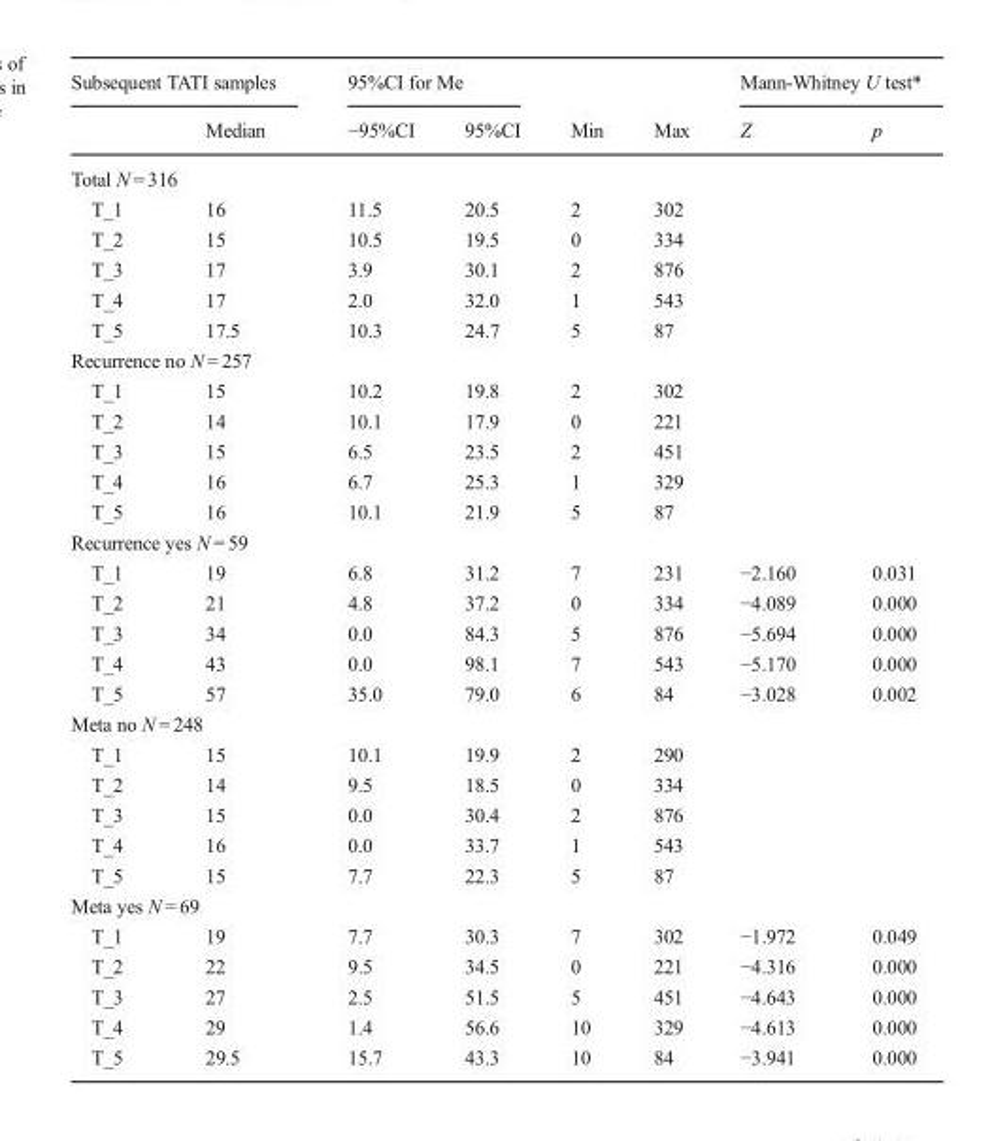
<table><thead><tr><td colspan="2">Subsequent TATI samples</td><td colspan="2">95%CI for Me</td><td rowspan="2">Min</td><td rowspan="2">Max</td><td colspan="2">Mann-Whitney U test*</td></tr><tr><td></td><td>Median</td><td>−95%CI</td><td>95%CI</td><td>Z</td><td>p</td></tr></thead><tbody><tr><td colspan="8">Total N = 316</td></tr><tr><td>T_1</td><td>16</td><td>11.5</td><td>20.5</td><td>2</td><td>302</td><td></td><td></td></tr><tr><td>T_2</td><td>15</td><td>10.5</td><td>19.5</td><td>0</td><td>334</td><td></td><td></td></tr><tr><td>T_3</td><td>17</td><td>3.9</td><td>30.1</td><td>2</td><td>876</td><td></td><td></td></tr><tr><td>T_4</td><td>17</td><td>2.0</td><td>32.0</td><td>1</td><td>543</td><td></td><td></td></tr><tr><td>T_5</td><td>17.5</td><td>10.3</td><td>24.7</td><td>5</td><td>87</td><td></td><td></td></tr><tr><td colspan="8">Recurrence no N = 257</td></tr><tr><td>T_1</td><td>15</td><td>10.2</td><td>19.8</td><td>2</td><td>302</td><td></td><td></td></tr><tr><td>T_2</td><td>14</td><td>10.1</td><td>17.9</td><td>0</td><td>221</td><td></td><td></td></tr><tr><td>T_3</td><td>15</td><td>6.5</td><td>23.5</td><td>2</td><td>451</td><td></td><td></td></tr><tr><td>T_4</td><td>16</td><td>6.7</td><td>25.3</td><td>1</td><td>329</td><td></td><td></td></tr><tr><td>T_5</td><td>16</td><td>10.1</td><td>21.9</td><td>5</td><td>87</td><td></td><td></td></tr><tr><td colspan="8">Recurrence yes N = 59</td></tr><tr><td>T_1</td><td>19</td><td>6.8</td><td>31.2</td><td>7</td><td>231</td><td>−2.160</td><td>0.031</td></tr><tr><td>T_2</td><td>21</td><td>4.8</td><td>37.2</td><td>0</td><td>334</td><td>−4.089</td><td>0.000</td></tr><tr><td>T_3</td><td>34</td><td>0.0</td><td>84.3</td><td>5</td><td>876</td><td>−5.694</td><td>0.000</td></tr><tr><td>T_4</td><td>43</td><td>0.0</td><td>98.1</td><td>7</td><td>543</td><td>−5.170</td><td>0.000</td></tr><tr><td>T_5</td><td>57</td><td>35.0</td><td>79.0</td><td>6</td><td>84</td><td>−3.028</td><td>0.002</td></tr><tr><td colspan="8">Meta no N = 248</td></tr><tr><td>T_1</td><td>15</td><td>10.1</td><td>19.9</td><td>2</td><td>290</td><td></td><td></td></tr><tr><td>T_2</td><td>14</td><td>9.5</td><td>18.5</td><td>0</td><td>334</td><td></td><td></td></tr><tr><td>T_3</td><td>15</td><td>0.0</td><td>30.4</td><td>2</td><td>876</td><td></td><td></td></tr><tr><td>T_4</td><td>16</td><td>0.0</td><td>33.7</td><td>1</td><td>543</td><td></td><td></td></tr><tr><td>T_5</td><td>15</td><td>7.7</td><td>22.3</td><td>5</td><td>87</td><td></td><td></td></tr><tr><td colspan="8">Meta yes N = 69</td></tr><tr><td>T_1</td><td>19</td><td>7.7</td><td>30.3</td><td>7</td><td>302</td><td>−1.972</td><td>0.049</td></tr><tr><td>T_2</td><td>22</td><td>9.5</td><td>34.5</td><td>0</td><td>221</td><td>−4.316</td><td>0.000</td></tr><tr><td>T_3</td><td>27</td><td>2.5</td><td>51.5</td><td>5</td><td>451</td><td>−4.643</td><td>0.000</td></tr><tr><td>T_4</td><td>29</td><td>1.4</td><td>56.6</td><td>10</td><td>329</td><td>−4.613</td><td>0.000</td></tr><tr><td>T_5</td><td>29.5</td><td>15.7</td><td>43.3</td><td>10</td><td>84</td><td>−3.941</td><td>0.000</td></tr></tbody></table>